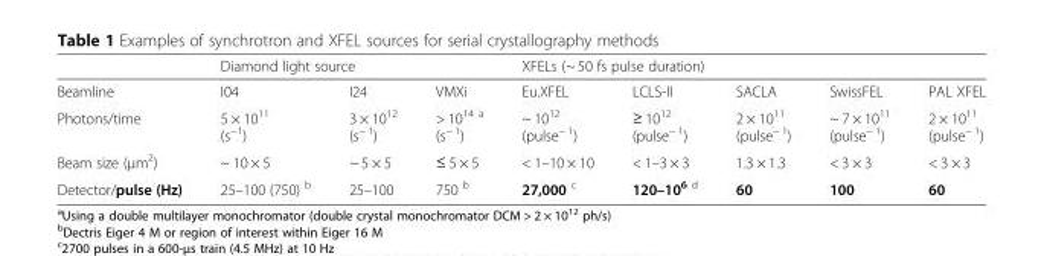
<table><thead><tr><td rowspan="2">Beamline</td><td colspan="3">Diamond light source</td><td colspan="5">XFELs (~ 50 fs pulse duration)</td></tr><tr><td>I04</td><td>I24</td><td>VMXi</td><td>Eu.XFEL</td><td>LCLS-II</td><td>SACLA</td><td>SwissFEL</td><td>PAL XFEL</td></tr></thead><tbody><tr><td>Photons/time</td><td>5 × 10<sup>11</sup> (s<sup>−1</sup>)</td><td>3 × 10<sup>12</sup> (s<sup>− 1</sup>)</td><td>&gt; 10<sup>14 a</sup> (s<sup>− 1</sup>)</td><td>~ 10<sup>12</sup> (pulse<sup>− 1</sup>)</td><td>≥ 10<sup>12</sup> (pulse<sup>− 1</sup>)</td><td>2 × 10<sup>11</sup> (pulse<sup>− 1</sup>)</td><td>~ 7 × 10<sup>11</sup> (pulse<sup>− 1</sup>)</td><td>2 × 10<sup>11</sup> (pulse<sup>− 1</sup>)</td></tr><tr><td>Beam size (μm<sup>2</sup>)</td><td>~ 10 × 5</td><td>~ 5 × 5</td><td>≤ 5 × 5</td><td>&lt; 1–10 × 10</td><td>&lt; 1–3 × 3</td><td>1.3 × 1.3</td><td>&lt; 3 × 3</td><td>&lt; 3 × 3</td></tr><tr><td>Detector/pulse (Hz)</td><td>25–100 (750) <sup>b</sup></td><td>25–100</td><td>750 <sup>b</sup></td><td>27,000 <sup>c</sup></td><td>120–10<sup>6 d</sup></td><td>60</td><td>100</td><td>60</td></tr></tbody></table>